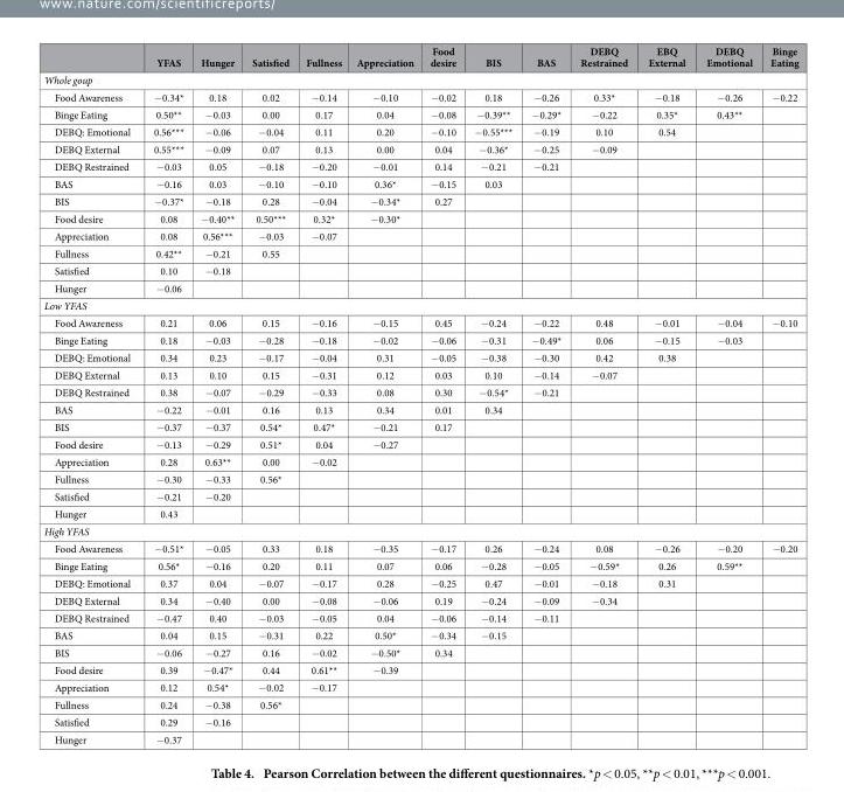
<table><thead><tr><td></td><td>YFAS</td><td>Hunger</td><td>Satisfied</td><td>Fullness</td><td>Appreciation</td><td>Food desire</td><td>BIS</td><td>BAS</td><td>DEBQ Restrained</td><td>EBQ External</td><td>DEBQ Emotional</td><td>Binge Eating</td></tr></thead><tbody><tr><td colspan="13">Whole goup</td></tr><tr><td>Food Awareness</td><td>− 0.34*</td><td>0.18</td><td>0.02</td><td>− 0.14</td><td>− 0.10</td><td>− 0.02</td><td>0.18</td><td>− 0.26</td><td>0.33*</td><td>− 0.18</td><td>− 0.26</td><td>− 0.22</td></tr><tr><td>Binge Eating</td><td>0.50**</td><td>− 0.03</td><td>0.00</td><td>0.17</td><td>0.04</td><td>− 0.08</td><td>− 0.39**</td><td>− 0.29*</td><td>− 0.22</td><td>0.35*</td><td>0.43**</td><td></td></tr><tr><td>DEBQ: Emotional</td><td>0.56***</td><td>− 0.06</td><td>− 0.04</td><td>0.11</td><td>0.20</td><td>− 0.10</td><td>− 0.55***</td><td>− 0.19</td><td>0.10</td><td>0.54</td><td></td><td></td></tr><tr><td>DEBQ External</td><td>0.55***</td><td>− 0.09</td><td>0.07</td><td>0.13</td><td>0.00</td><td>0.04</td><td>− 0.36*</td><td>− 0.25</td><td>− 0.09</td><td></td><td></td><td></td></tr><tr><td>DEBQ Restrained</td><td>− 0.03</td><td>0.05</td><td>− 0.18</td><td>− 0.20</td><td>− 0.01</td><td>0.14</td><td>− 0.21</td><td>− 0.21</td><td></td><td></td><td></td><td></td></tr><tr><td>BAS</td><td>− 0.16</td><td>0.03</td><td>− 0.10</td><td>− 0.10</td><td>0.36*</td><td>− 0.15</td><td>0.03</td><td></td><td></td><td></td><td></td><td></td></tr><tr><td>BIS</td><td>− 0.37*</td><td>− 0.18</td><td>0.28</td><td>− 0.04</td><td>− 0.34*</td><td>0.27</td><td></td><td></td><td></td><td></td><td></td><td></td></tr><tr><td>Food desire</td><td>0.08</td><td>− 0.40**</td><td>0.50***</td><td>0.32*</td><td>− 0.30*</td><td></td><td></td><td></td><td></td><td></td><td></td><td></td></tr><tr><td>Appreciation</td><td>0.08</td><td>0.56***</td><td>− 0.03</td><td>− 0.07</td><td></td><td></td><td></td><td></td><td></td><td></td><td></td><td></td></tr><tr><td>Fullness</td><td>0.42**</td><td>− 0.21</td><td>0.55</td><td></td><td></td><td></td><td></td><td></td><td></td><td></td><td></td><td></td></tr><tr><td>Satisfied</td><td>0.10</td><td>− 0.18</td><td></td><td></td><td></td><td></td><td></td><td></td><td></td><td></td><td></td><td></td></tr><tr><td>Hunger</td><td>− 0.06</td><td></td><td></td><td></td><td></td><td></td><td></td><td></td><td></td><td></td><td></td><td></td></tr><tr><td colspan="13">Low YFAS</td></tr><tr><td>Food Awareness</td><td>0.21</td><td>0.06</td><td>0.15</td><td>− 0.16</td><td>− 0.15</td><td>0.45</td><td>− 0.24</td><td>− 0.22</td><td>0.48</td><td>− 0.01</td><td>− 0.04</td><td>− 0.10</td></tr><tr><td>Binge Eating</td><td>0.18</td><td>− 0.03</td><td>− 0.28</td><td>− 0.18</td><td>− 0.02</td><td>− 0.06</td><td>− 0.31</td><td>− 0.49*</td><td>0.06</td><td>− 0.15</td><td>− 0.03</td><td></td></tr><tr><td>DEBQ: Emotional</td><td>0.34</td><td>0.23</td><td>− 0.17</td><td>− 0.04</td><td>0.31</td><td>− 0.05</td><td>− 0.38</td><td>− 0.30</td><td>0.42</td><td>0.38</td><td></td><td></td></tr><tr><td>DEBQ External</td><td>0.13</td><td>0.10</td><td>0.15</td><td>− 0.31</td><td>0.12</td><td>0.03</td><td>0.10</td><td>− 0.14</td><td>− 0.07</td><td></td><td></td><td></td></tr><tr><td>DEBQ Restrained</td><td>0.38</td><td>− 0.07</td><td>− 0.29</td><td>− 0.33</td><td>0.08</td><td>0.30</td><td>− 0.54*</td><td>− 0.21</td><td></td><td></td><td></td><td></td></tr><tr><td>BAS</td><td>− 0.22</td><td>− 0.01</td><td>0.16</td><td>0.13</td><td>0.34</td><td>0.01</td><td>0.34</td><td></td><td></td><td></td><td></td><td></td></tr><tr><td>BIS</td><td>− 0.37</td><td>− 0.37</td><td>0.54*</td><td>0.47*</td><td>− 0.21</td><td>0.17</td><td></td><td></td><td></td><td></td><td></td><td></td></tr><tr><td>Food desire</td><td>− 0.13</td><td>− 0.29</td><td>0.51*</td><td>0.04</td><td>− 0.27</td><td></td><td></td><td></td><td></td><td></td><td></td><td></td></tr><tr><td>Appreciation</td><td>0.28</td><td>0.63**</td><td>0.00</td><td>− 0.02</td><td></td><td></td><td></td><td></td><td></td><td></td><td></td><td></td></tr><tr><td>Fullness</td><td>− 0.30</td><td>− 0.33</td><td>0.56*</td><td></td><td></td><td></td><td></td><td></td><td></td><td></td><td></td><td></td></tr><tr><td>Satisfied</td><td>− 0.21</td><td>− 0.20</td><td></td><td></td><td></td><td></td><td></td><td></td><td></td><td></td><td></td><td></td></tr><tr><td>Hunger</td><td>0.43</td><td></td><td></td><td></td><td></td><td></td><td></td><td></td><td></td><td></td><td></td><td></td></tr><tr><td colspan="13">High YFAS</td></tr><tr><td>Food Awareness</td><td>− 0.51*</td><td>− 0.05</td><td>0.33</td><td>0.18</td><td>− 0.35</td><td>− 0.17</td><td>0.26</td><td>− 0.24</td><td>0.08</td><td>− 0.26</td><td>− 0.20</td><td>− 0.20</td></tr><tr><td>Binge Eating</td><td>0.56*</td><td>− 0.16</td><td>0.20</td><td>0.11</td><td>0.07</td><td>0.06</td><td>− 0.28</td><td>− 0.05</td><td>− 0.59*</td><td>0.26</td><td>0.59**</td><td></td></tr><tr><td>DEBQ: Emotional</td><td>0.37</td><td>0.04</td><td>− 0.07</td><td>− 0.17</td><td>0.28</td><td>− 0.25</td><td>0.47</td><td>− 0.01</td><td>− 0.18</td><td>0.31</td><td></td><td></td></tr><tr><td>DEBQ External</td><td>0.34</td><td>− 0.40</td><td>0.00</td><td>− 0.08</td><td>− 0.06</td><td>0.19</td><td>− 0.24</td><td>− 0.09</td><td>− 0.34</td><td></td><td></td><td></td></tr><tr><td>DEBQ Restrained</td><td>− 0.47</td><td>0.40</td><td>− 0.03</td><td>− 0.05</td><td>0.04</td><td>− 0.06</td><td>− 0.14</td><td>− 0.11</td><td></td><td></td><td></td><td></td></tr><tr><td>BAS</td><td>0.04</td><td>0.15</td><td>− 0.31</td><td>0.22</td><td>0.50*</td><td>− 0.34</td><td>− 0.15</td><td></td><td></td><td></td><td></td><td></td></tr><tr><td>BIS</td><td>− 0.06</td><td>− 0.27</td><td>0.16</td><td>− 0.02</td><td>− 0.50*</td><td>0.34</td><td></td><td></td><td></td><td></td><td></td><td></td></tr><tr><td>Food desire</td><td>0.39</td><td>− 0.47*</td><td>0.44</td><td>0.61**</td><td>− 0.39</td><td></td><td></td><td></td><td></td><td></td><td></td><td></td></tr><tr><td>Appreciation</td><td>0.12</td><td>0.54*</td><td>− 0.02</td><td>− 0.17</td><td></td><td></td><td></td><td></td><td></td><td></td><td></td><td></td></tr><tr><td>Fullness</td><td>0.24</td><td>− 0.38</td><td>0.56*</td><td></td><td></td><td></td><td></td><td></td><td></td><td></td><td></td><td></td></tr><tr><td>Satisfied</td><td>0.29</td><td>− 0.16</td><td></td><td></td><td></td><td></td><td></td><td></td><td></td><td></td><td></td><td></td></tr><tr><td>Hunger</td><td>− 0.37</td><td></td><td></td><td></td><td></td><td></td><td></td><td></td><td></td><td></td><td></td><td></td></tr></tbody></table>